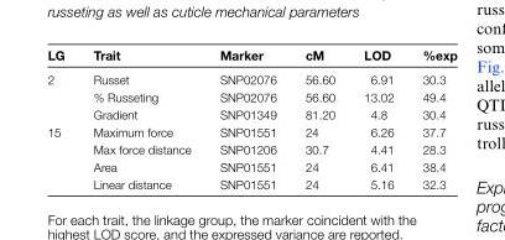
<table><thead><tr><td>LG</td><td>Trait</td><td>Marker</td><td>cM</td><td>LOD</td><td>%exp</td></tr></thead><tbody><tr><td rowspan="3">2</td><td>Russet</td><td>SNP02076</td><td>56.60</td><td>6.91</td><td>30.3</td></tr><tr><td>% Russeting</td><td>SNP02076</td><td>56.60</td><td>13.02</td><td>49.4</td></tr><tr><td>Gradient</td><td>SNP01349</td><td>81.20</td><td>4.8</td><td>30.4</td></tr><tr><td rowspan="4">15</td><td>Maximum force</td><td>SNP01551</td><td>24</td><td>6.26</td><td>37.7</td></tr><tr><td>Max force distance</td><td>SNP01206</td><td>30.7</td><td>4.41</td><td>28.3</td></tr><tr><td>Area</td><td>SNP01551</td><td>24</td><td>6.41</td><td>38.4</td></tr><tr><td>Linear distance</td><td>SNP01551</td><td>24</td><td>5.16</td><td>32.3</td></tr></tbody></table>